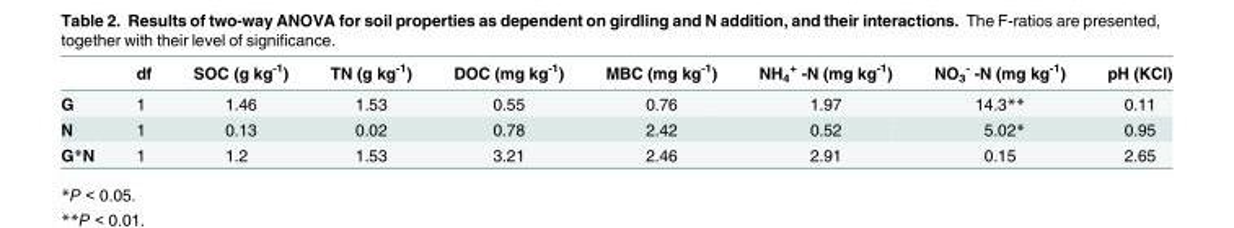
<table><thead><tr><td></td><td>df</td><td>SOC (g kg<sup>-1</sup>)</td><td>TN (g kg<sup>-1</sup>)</td><td>DOC (mg kg<sup>-1</sup>)</td><td>MBC (mg kg<sup>-1</sup>)</td><td>NH<sub>4</sub> <sup>+</sup> -N (mg kg<sup>-1</sup>)</td><td>NO<sub>3</sub> <sup>-</sup> -N (mg kg<sup>-1</sup>)</td><td>pH (KCl)</td></tr></thead><tbody><tr><td>G</td><td>1</td><td>1.46</td><td>1.53</td><td>0.55</td><td>0.76</td><td>1.97</td><td>14.3**</td><td>0.11</td></tr><tr><td>N</td><td>1</td><td>0.13</td><td>0.02</td><td>0.78</td><td>2.42</td><td>0.52</td><td>5.02*</td><td>0.95</td></tr><tr><td>G*N</td><td>1</td><td>1.2</td><td>1.53</td><td>3.21</td><td>2.46</td><td>2.91</td><td>0.15</td><td>2.65</td></tr></tbody></table>